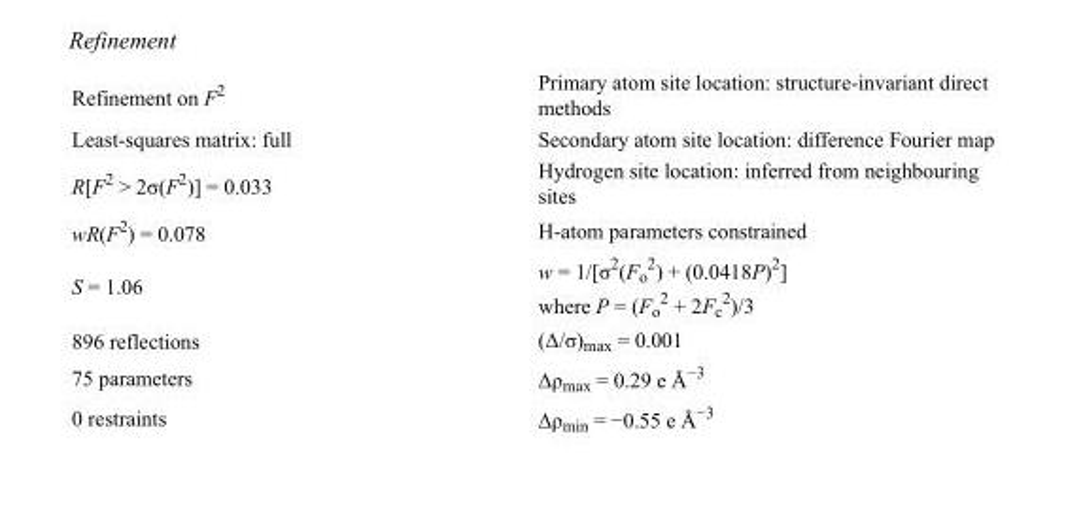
<table><tbody><tr><td>Refinement on F<sup>2</sup></td><td>Primary atom site location: structure-invariant direct methods</td></tr><tr><td>Least-squares matrix: full</td><td>Secondary atom site location: difference Fourier map</td></tr><tr><td>R[F<sup>2</sup> &gt; 2σ(F<sup>2</sup>)] = 0.033</td><td>Hydrogen site location: inferred from neighbouring sites</td></tr><tr><td>wR(F<sup>2</sup>) = 0.078</td><td>H-atom parameters constrained</td></tr><tr><td>S = 1.06</td><td>w = 1/[σ<sup>2</sup>(F<sub>o</sub> <sup>2</sup>) + (0.0418P)<sup>2</sup>] where P = (F<sub>o</sub> <sup>2</sup> + 2F<sub>c</sub> <sup>2</sup>)/3</td></tr><tr><td>896 reflections</td><td>(Δ/σ)<sub>max</sub> = 0.001</td></tr><tr><td>75 parameters</td><td>Δρ<sub>max</sub> = 0.29 e Å<sup>−3</sup></td></tr><tr><td>0 restraints</td><td>Δρ<sub>min</sub> = −0.55 e Å<sup>−3</sup></td></tr></tbody></table>